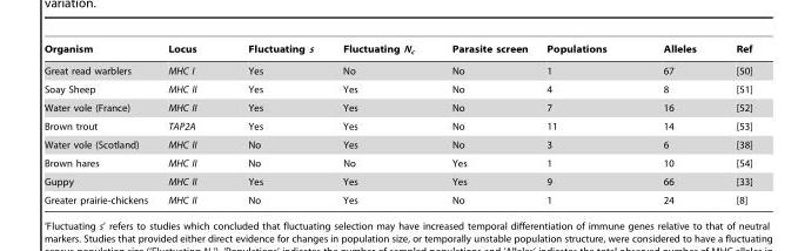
<table><thead><tr><td>Organism</td><td>Locus</td><td>Fluctuating s</td><td>Fluctuating N<sub>c</sub></td><td>Parasite screen</td><td>Populations</td><td>Alleles</td><td>Ref</td></tr></thead><tbody><tr><td>Great read warblers</td><td>MHC I</td><td>Yes</td><td>No</td><td>No</td><td>1</td><td>67</td><td>[50]</td></tr><tr><td>Soay Sheep</td><td>MHC II</td><td>Yes</td><td>Yes</td><td>No</td><td>4</td><td>8</td><td>[51]</td></tr><tr><td>Water vole (France)</td><td>MHC II</td><td>Yes</td><td>Yes</td><td>No</td><td>7</td><td>16</td><td>[52]</td></tr><tr><td>Brown trout</td><td>TAP2A</td><td>Yes</td><td>Yes</td><td>No</td><td>11</td><td>14</td><td>[53]</td></tr><tr><td>Water vole (Scotland)</td><td>MHC II</td><td>No</td><td>Yes</td><td>No</td><td>3</td><td>6</td><td>[38]</td></tr><tr><td>Brown hares</td><td>MHC II</td><td>No</td><td>No</td><td>Yes</td><td>1</td><td>10</td><td>[54]</td></tr><tr><td>Guppy</td><td>MHC II</td><td>Yes</td><td>Yes</td><td>Yes</td><td>9</td><td>66</td><td>[33]</td></tr><tr><td>Greater prairie-chickens</td><td>MHC II</td><td>No</td><td>Yes</td><td>No</td><td>1</td><td>24</td><td>[8]</td></tr></tbody></table>